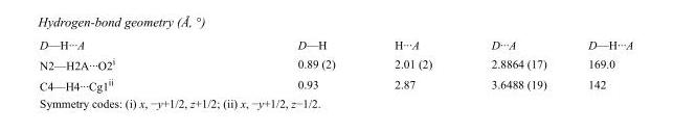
<table><tbody><tr><td>D—H···A</td><td>D—H</td><td>H···A</td><td>D···A</td><td>D—H···A</td></tr><tr><td>N2—H2A···O2<sup>i</sup></td><td>0.89 (2)</td><td>2.01 (2)</td><td>2.8864 (17)</td><td>169.0</td></tr><tr><td>C4—H4···Cg1<sup>ii</sup></td><td>0.93</td><td>2.87</td><td>3.6488 (19)</td><td>142</td></tr></tbody></table>